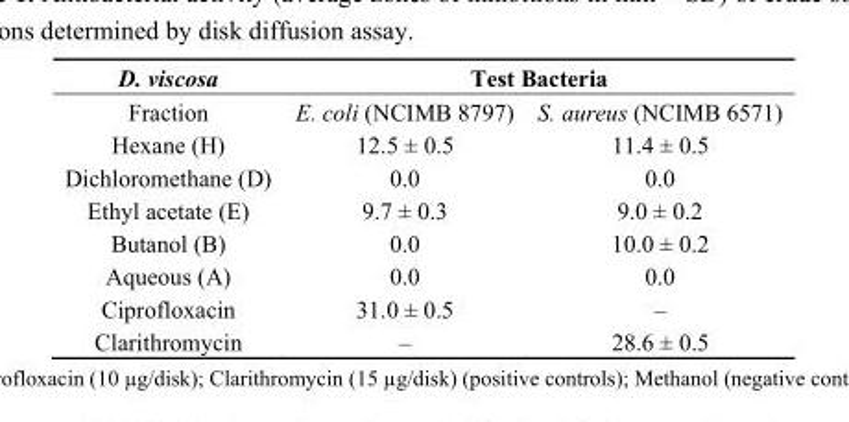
<table><thead><tr><td rowspan="2">D. viscosa Fraction</td><td colspan="2">Test Bacteria</td></tr><tr><td>E. coli (NCIMB 8797)</td><td>S. aureus (NCIMB 6571)</td></tr></thead><tbody><tr><td>Hexane (H)</td><td>12.5 ± 0.5</td><td>11.4 ± 0.5</td></tr><tr><td>Dichloromethane (D)</td><td>0.0</td><td>0.0</td></tr><tr><td>Ethyl acetate (E)</td><td>9.7 ± 0.3</td><td>9.0 ± 0.2</td></tr><tr><td>Butanol (B)</td><td>0.0</td><td>10.0 ± 0.2</td></tr><tr><td>Aqueous (A)</td><td>0.0</td><td>0.0</td></tr><tr><td>Ciprofloxacin</td><td>31.0 ± 0.5</td><td>–</td></tr><tr><td>Clarithromycin</td><td>–</td><td>28.6 ± 0.5</td></tr></tbody></table>